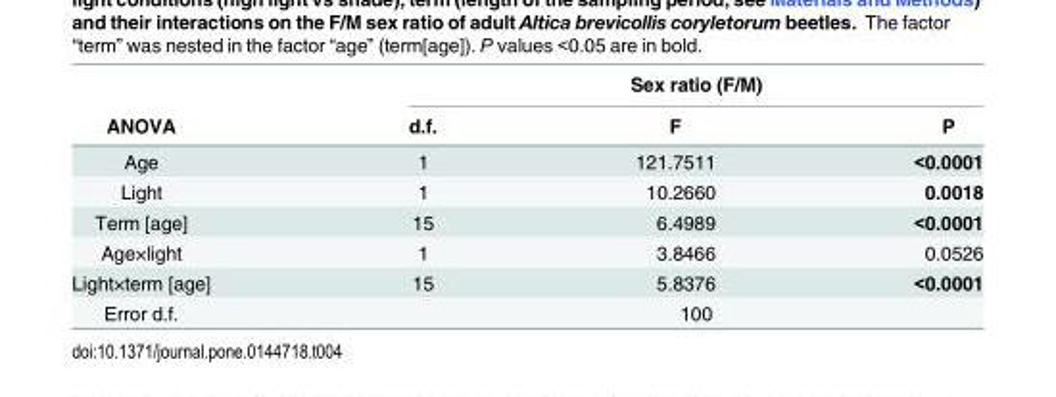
<table><thead><tr><td rowspan="2">ANOVA</td><td colspan="3">Sex ratio (F/M)</td></tr><tr><td>d.f.</td><td>F</td><td>P</td></tr></thead><tbody><tr><td>Age</td><td>1</td><td>121.7511</td><td>&lt;0.0001</td></tr><tr><td>Light</td><td>1</td><td>10.2660</td><td>0.0018</td></tr><tr><td>Term [age]</td><td>15</td><td>6.4989</td><td>&lt;0.0001</td></tr><tr><td>Age×light</td><td>1</td><td>3.8466</td><td>0.0526</td></tr><tr><td>Light×term [age]</td><td>15</td><td>5.8376</td><td>&lt;0.0001</td></tr><tr><td>Error d.f.</td><td colspan="3">100</td></tr></tbody></table>